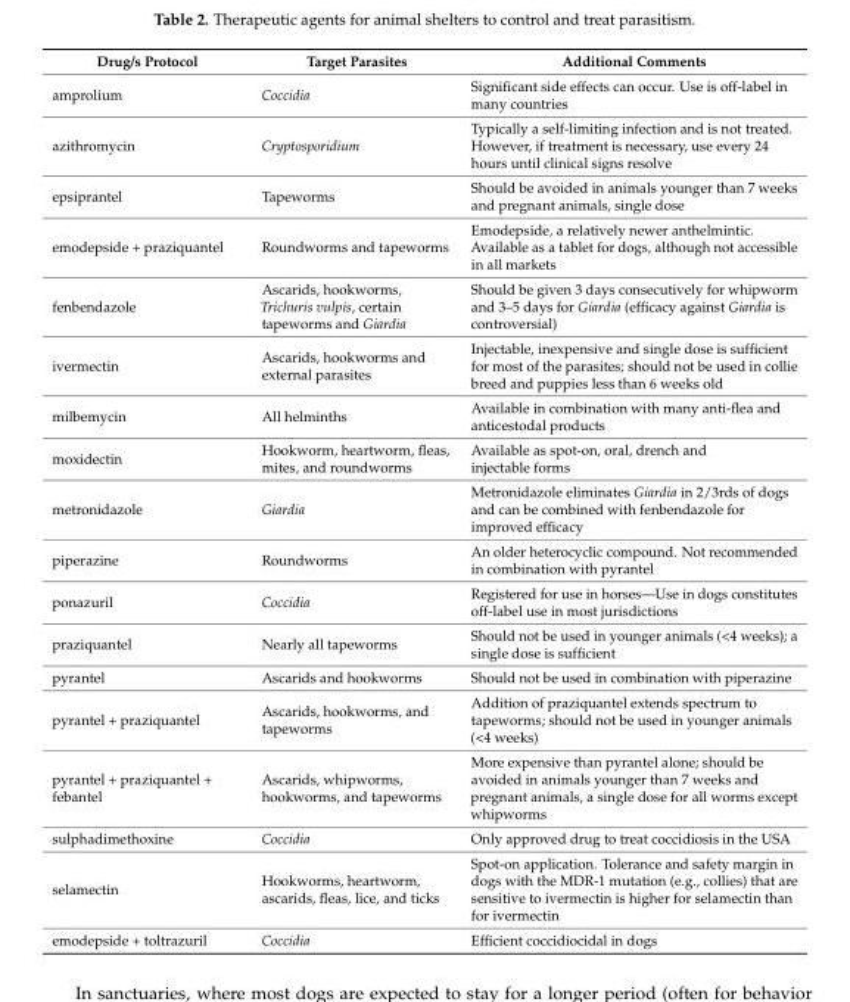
<table><thead><tr><td>Drug/s Protocol</td><td>Target Parasites</td><td>Additional Comments</td></tr></thead><tbody><tr><td>amprolium</td><td>Coccidia</td><td>Significant side effects can occur. Use is off-label in many countries</td></tr><tr><td>azithromycin</td><td>Cryptosporidium</td><td>Typically a self-limiting infection and is not treated. However, if treatment is necessary, use every 24 hours until clinical signs resolve</td></tr><tr><td>epsiprantel</td><td>Tapeworms</td><td>Should be avoided in animals younger than 7 weeks and pregnant animals, single dose</td></tr><tr><td>emodepside + praziquantel</td><td>Roundworms and tapeworms</td><td>Emodepside, a relatively newer anthelmintic. Available as a tablet for dogs, although not accessible in all markets</td></tr><tr><td>fenbendazole</td><td>Ascarids, hookworms, Trichuris vulpis, certain tapeworms and Giardia</td><td>Should be given 3 days consecutively for whipworm and 3–5 days for Giardia (efficacy against Giardia is controversial)</td></tr><tr><td>ivermectin</td><td>Ascarids, hookworms and external parasites</td><td>Injectable, inexpensive and single dose is sufficient for most of the parasites; should not be used in collie breed and puppies less than 6 weeks old</td></tr><tr><td>milbemycin</td><td>All helminths</td><td>Available in combination with many anti-flea and anticestodal products</td></tr><tr><td>moxidectin</td><td>Hookworm, heartworm, fleas, mites, and roundworms</td><td>Available as spot-on, oral, drench and injectable forms</td></tr><tr><td>metronidazole</td><td>Giardia</td><td>Metronidazole eliminates Giardia in 2/3rds of dogs and can be combined with fenbendazole for improved efficacy</td></tr><tr><td>piperazine</td><td>Roundworms</td><td>An older heterocyclic compound. Not recommended in combination with pyrantel</td></tr><tr><td>ponazuril</td><td>Coccidia</td><td>Registered for use in horses—Use in dogs constitutes off-label use in most jurisdictions</td></tr><tr><td>praziquantel</td><td>Nearly all tapeworms</td><td>Should not be used in younger animals (&lt;4 weeks); a single dose is sufficient</td></tr><tr><td>pyrantel</td><td>Ascarids and hookworms</td><td>Should not be used in combination with piperazine</td></tr><tr><td>pyrantel + praziquantel</td><td>Ascarids, hookworms, and tapeworms</td><td>Addition of praziquantel extends spectrum to tapeworms; should not be used in younger animals (&lt;4 weeks)</td></tr><tr><td>pyrantel + praziquantel + febantel</td><td>Ascarids, whipworms, hookworms, and tapeworms</td><td>More expensive than pyrantel alone; should be avoided in animals younger than 7 weeks and pregnant animals, a single dose for all worms except whipworms</td></tr><tr><td>sulphadimethoxine</td><td>Coccidia</td><td>Only approved drug to treat coccidiosis in the USA</td></tr><tr><td>selamectin</td><td>Hookworms, heartworm, ascarids, fleas, lice, and ticks</td><td>Spot-on application. Tolerance and safety margin in dogs with the MDR-1 mutation (e.g., collies) that are sensitive to ivermectin is higher for selamectin than for ivermectin</td></tr><tr><td>emodepside + toltrazuril</td><td>Coccidia</td><td>Efficient coccidiocidal in dogs</td></tr></tbody></table>